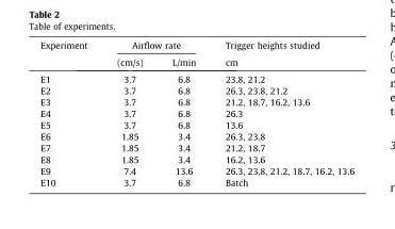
<table><thead><tr><td rowspan="2">Experiment</td><td colspan="2">Airflow rate</td><td rowspan="2">Trigger heights studied cm</td></tr><tr><td>(cm/s)</td><td>L/min</td></tr></thead><tbody><tr><td>E1</td><td>3.7</td><td>6.8</td><td>23.8, 21.2</td></tr><tr><td>E2</td><td>3.7</td><td>6.8</td><td>26.3, 23.8, 21.2</td></tr><tr><td>E3</td><td>3.7</td><td>6.8</td><td>21.2, 18.7, 16.2, 13.6</td></tr><tr><td>E4</td><td>3.7</td><td>6.8</td><td>26.3</td></tr><tr><td>E5</td><td>3.7</td><td>6.8</td><td>13.6</td></tr><tr><td>E6</td><td>1.85</td><td>3.4</td><td>26.3, 23.8</td></tr><tr><td>E7</td><td>1.85</td><td>3.4</td><td>21.2, 18.7</td></tr><tr><td>E8</td><td>1.85</td><td>3.4</td><td>16.2, 13.6</td></tr><tr><td>E9</td><td>7.4</td><td>13.6</td><td>26.3, 23.8, 21.2, 18.7, 16.2, 13.6</td></tr><tr><td>E10</td><td>3.7</td><td>6.8</td><td>Batch</td></tr></tbody></table>